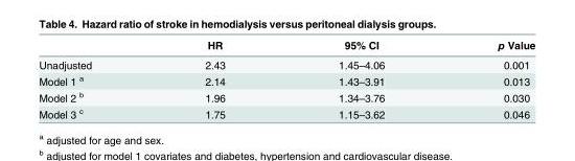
<table><thead><tr><td></td><td>HR</td><td>95% CI</td><td>p Value</td></tr></thead><tbody><tr><td>Unadjusted</td><td>2.43</td><td>1.45–4.06</td><td>0.001</td></tr><tr><td>Model 1 <sup>a</sup></td><td>2.14</td><td>1.43–3.91</td><td>0.013</td></tr><tr><td>Model 2 <sup>b</sup></td><td>1.96</td><td>1.34–3.76</td><td>0.030</td></tr><tr><td>Model 3 <sup>c</sup></td><td>1.75</td><td>1.15–3.62</td><td>0.046</td></tr></tbody></table>